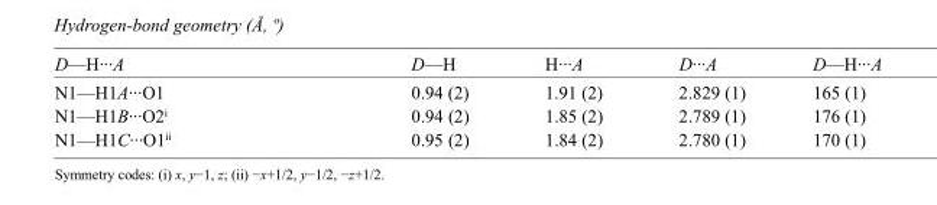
<table><tbody><tr><td>D—H···A</td><td>D—H</td><td>H···A</td><td>D···A</td><td>D—H···A</td></tr><tr><td>N1—H1A···O1</td><td>0.94 (2)</td><td>1.91 (2)</td><td>2.829 (1)</td><td>165 (1)</td></tr><tr><td>N1—H1B···O2<sup>i</sup></td><td>0.94 (2)</td><td>1.85 (2)</td><td>2.789 (1)</td><td>176 (1)</td></tr><tr><td>N1—H1C···O1<sup>ii</sup></td><td>0.95 (2)</td><td>1.84 (2)</td><td>2.780 (1)</td><td>170 (1)</td></tr></tbody></table>